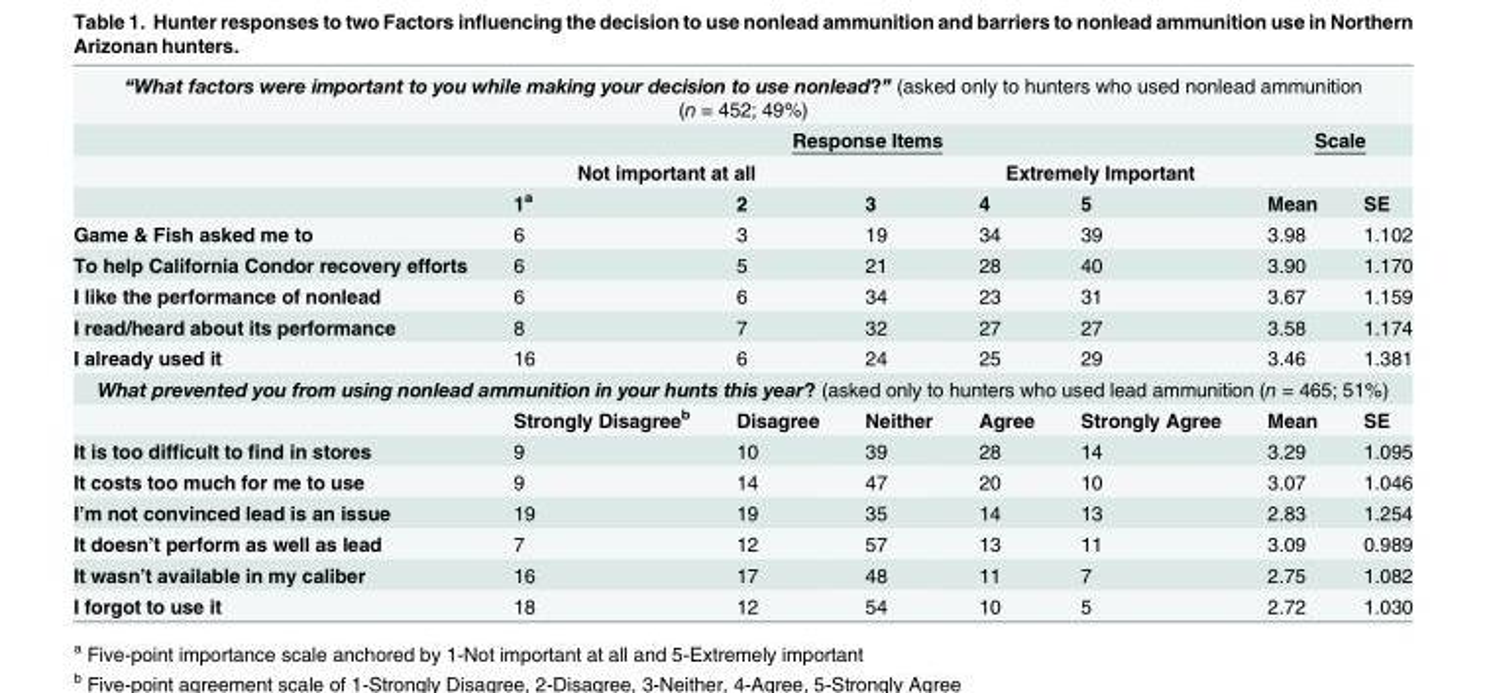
<table><tbody><tr><td colspan="8">“What factors were important to you while making your decision to use nonlead?” (asked only to hunters who used nonlead ammunition (n = 452; 49%)</td></tr><tr><td></td><td colspan="5">Response Items</td><td colspan="2">Scale</td></tr><tr><td></td><td colspan="2">Not important at all</td><td></td><td colspan="2">Extremely Important</td><td></td><td></td></tr><tr><td></td><td>1<sup>a</sup></td><td>2</td><td>3</td><td>4</td><td>5</td><td>Mean</td><td>SE</td></tr><tr><td>Game &amp; Fish asked me to</td><td>6</td><td>3</td><td>19</td><td>34</td><td>39</td><td>3.98</td><td>1.102</td></tr><tr><td>To help California Condor recovery efforts</td><td>6</td><td>5</td><td>21</td><td>28</td><td>40</td><td>3.90</td><td>1.170</td></tr><tr><td>I like the performance of nonlead</td><td>6</td><td>6</td><td>34</td><td>23</td><td>31</td><td>3.67</td><td>1.159</td></tr><tr><td>I read/heard about its performance</td><td>8</td><td>7</td><td>32</td><td>27</td><td>27</td><td>3.58</td><td>1.174</td></tr><tr><td>I already used it</td><td>16</td><td>6</td><td>24</td><td>25</td><td>29</td><td>3.46</td><td>1.381</td></tr><tr><td colspan="8">What prevented you from using nonlead ammunition in your hunts this year? (asked only to hunters who used lead ammunition (n = 465; 51%)</td></tr><tr><td></td><td>Strongly Disagree<sup>b</sup></td><td>Disagree</td><td>Neither</td><td>Agree</td><td>Strongly Agree</td><td>Mean</td><td>SE</td></tr><tr><td>It is too difficult to find in stores</td><td>9</td><td>10</td><td>39</td><td>28</td><td>14</td><td>3.29</td><td>1.095</td></tr><tr><td>It costs too much for me to use</td><td>9</td><td>14</td><td>47</td><td>20</td><td>10</td><td>3.07</td><td>1.046</td></tr><tr><td>I’m not convinced lead is an issue</td><td>19</td><td>19</td><td>35</td><td>14</td><td>13</td><td>2.83</td><td>1.254</td></tr><tr><td>It doesn’t perform as well as lead</td><td>7</td><td>12</td><td>57</td><td>13</td><td>11</td><td>3.09</td><td>0.989</td></tr><tr><td>It wasn’t available in my caliber</td><td>16</td><td>17</td><td>48</td><td>11</td><td>7</td><td>2.75</td><td>1.082</td></tr><tr><td>I forgot to use it</td><td>18</td><td>12</td><td>54</td><td>10</td><td>5</td><td>2.72</td><td>1.030</td></tr></tbody></table>